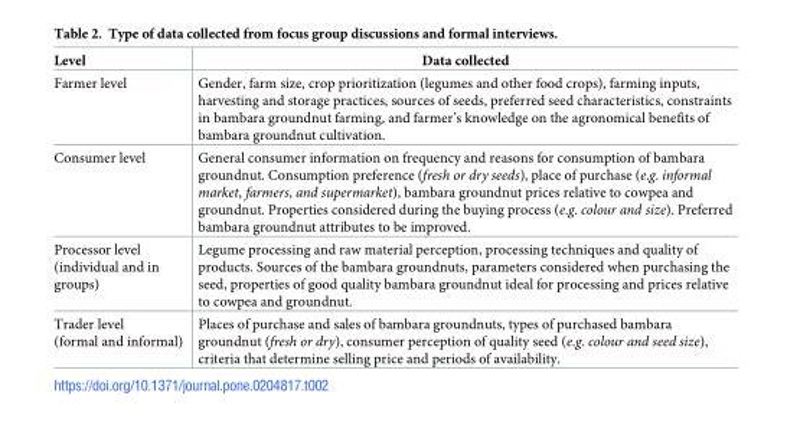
<table><thead><tr><td>Level</td><td>Data collected</td></tr></thead><tbody><tr><td>Farmer level</td><td>Gender, farm size, crop prioritization (legumes and other food crops), farming inputs, harvesting and storage practices, sources of seeds, preferred seed characteristics, constraints in bambara groundnut farming, and farmer’s knowledge on the agronomical benefits of bambara groundnut cultivation.</td></tr><tr><td>Consumer level</td><td>General consumer information on frequency and reasons for consumption of bambara groundnut. Consumption preference (fresh or dry seeds), place of purchase (e.g. informal market, farmers, and supermarket), bambara groundnut prices relative to cowpea and groundnut. Properties considered during the buying process (e.g. colour and size). Preferred bambara groundnut attributes to be improved.</td></tr><tr><td>Processor level (individual and in groups)</td><td>Legume processing and raw material perception, processing techniques and quality of products. Sources of the bambara groundnuts, parameters considered when purchasing the seed, properties of good quality bambara groundnut ideal for processing and prices relative to cowpea and groundnut.</td></tr><tr><td>Trader level (formal and informal)</td><td>Places of purchase and sales of bambara groundnuts, types of purchased bambara groundnut (fresh or dry), consumer perception of quality seed (e.g. colour and seed size), criteria that determine selling price and periods of availability.</td></tr></tbody></table>